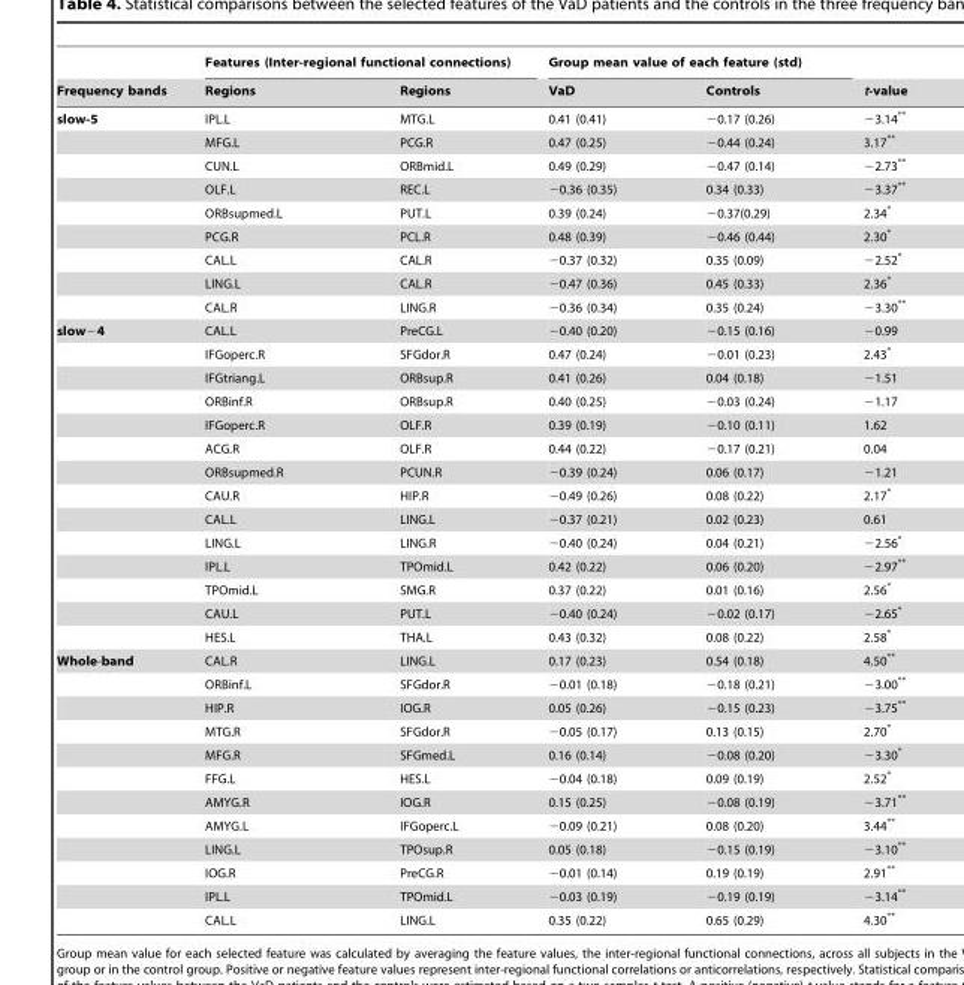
<table><thead><tr><td rowspan="2">Frequency bands</td><td colspan="2">Features (Inter-regional functional connections)</td><td colspan="2">Group mean value of each feature (std)</td><td rowspan="2">t-value</td></tr><tr><td>Regions</td><td>Regions</td><td>VaD</td><td>Controls</td></tr></thead><tbody><tr><td rowspan="9">slow-5</td><td>IPL.L</td><td>MTG.L</td><td>0.41 (0.41)</td><td>−0.17 (0.26)</td><td>−3.14**</td></tr><tr><td>MFG.L</td><td>PCG.R</td><td>0.47 (0.25)</td><td>−0.44 (0.24)</td><td>3.17**</td></tr><tr><td>CUN.L</td><td>ORBmid.L</td><td>0.49 (0.29)</td><td>−0.47 (0.14)</td><td>−2.73**</td></tr><tr><td>OLF.L</td><td>REC.L</td><td>−0.36 (0.35)</td><td>0.34 (0.33)</td><td>−3.37**</td></tr><tr><td>ORBsupmed.L</td><td>PUT.L</td><td>0.39 (0.24)</td><td>−0.37(0.29)</td><td>2.34*</td></tr><tr><td>PCG.R</td><td>PCL.R</td><td>0.48 (0.39)</td><td>−0.46 (0.44)</td><td>2.30*</td></tr><tr><td>CAL.L</td><td>CAL.R</td><td>−0.37 (0.32)</td><td>0.35 (0.09)</td><td>−2.52*</td></tr><tr><td>LING.L</td><td>CAL.R</td><td>−0.47 (0.36)</td><td>0.45 (0.33)</td><td>2.36*</td></tr><tr><td>CAL.R</td><td>LING.R</td><td>−0.36 (0.34)</td><td>0.35 (0.24)</td><td>−3.30**</td></tr><tr><td rowspan="14">slow−4</td><td>CAL.L</td><td>PreCG.L</td><td>−0.40 (0.20)</td><td>−0.15 (0.16)</td><td>−0.99</td></tr><tr><td>IFGoperc.R</td><td>SFGdor.R</td><td>0.47 (0.24)</td><td>−0.01 (0.23)</td><td>2.43*</td></tr><tr><td>IFGtriang.L</td><td>ORBsup.R</td><td>0.41 (0.26)</td><td>0.04 (0.18)</td><td>−1.51</td></tr><tr><td>ORBinf.R</td><td>ORBsup.R</td><td>0.40 (0.25)</td><td>−0.03 (0.24)</td><td>−1.17</td></tr><tr><td>IFGoperc.R</td><td>OLF.R</td><td>0.39 (0.19)</td><td>−0.10 (0.11)</td><td>1.62</td></tr><tr><td>ACG.R</td><td>OLF.R</td><td>0.44 (0.22)</td><td>−0.17 (0.21)</td><td>0.04</td></tr><tr><td>ORBsupmed.R</td><td>PCUN.R</td><td>−0.39 (0.24)</td><td>0.06 (0.17)</td><td>−1.21</td></tr><tr><td>CAU.R</td><td>HIP.R</td><td>−0.49 (0.26)</td><td>0.08 (0.22)</td><td>2.17*</td></tr><tr><td>CAL.L</td><td>LING.L</td><td>−0.37 (0.21)</td><td>0.02 (0.23)</td><td>0.61</td></tr><tr><td>LING.L</td><td>LING.R</td><td>−0.40 (0.24)</td><td>0.04 (0.21)</td><td>−2.56*</td></tr><tr><td>IPL.L</td><td>TPOmid.L</td><td>0.42 (0.22)</td><td>0.06 (0.20)</td><td>−2.97**</td></tr><tr><td>TPOmid.L</td><td>SMG.R</td><td>0.37 (0.22)</td><td>0.01 (0.16)</td><td>2.56*</td></tr><tr><td>CAU.L</td><td>PUT.L</td><td>−0.40 (0.24)</td><td>−0.02 (0.17)</td><td>−2.65*</td></tr><tr><td>HES.L</td><td>THA.L</td><td>0.43 (0.32)</td><td>0.08 (0.22)</td><td>2.58*</td></tr><tr><td rowspan="12">Whole-band</td><td>CAL.R</td><td>LING.L</td><td>0.17 (0.23)</td><td>0.54 (0.18)</td><td>4.50**</td></tr><tr><td>ORBinf.L</td><td>SFGdor.R</td><td>−0.01 (0.18)</td><td>−0.18 (0.21)</td><td>−3.00**</td></tr><tr><td>HIP.R</td><td>IOG.R</td><td>0.05 (0.26)</td><td>−0.15 (0.23)</td><td>−3.75**</td></tr><tr><td>MTG.R</td><td>SFGdor.R</td><td>−0.05 (0.17)</td><td>0.13 (0.15)</td><td>2.70*</td></tr><tr><td>MFG.R</td><td>SFGmed.L</td><td>0.16 (0.14)</td><td>−0.08 (0.20)</td><td>−3.30*</td></tr><tr><td>FFG.L</td><td>HES.L</td><td>−0.04 (0.18)</td><td>0.09 (0.19)</td><td>2.52*</td></tr><tr><td>AMYG.R</td><td>IOG.R</td><td>0.15 (0.25)</td><td>−0.08 (0.19)</td><td>−3.71**</td></tr><tr><td>AMYG.L</td><td>IFGoperc.L</td><td>−0.09 (0.21)</td><td>0.08 (0.20)</td><td>3.44**</td></tr><tr><td>LING.L</td><td>TPOsup.R</td><td>0.05 (0.18)</td><td>−0.15 (0.19)</td><td>−3.10**</td></tr><tr><td>IOG.R</td><td>PreCG.R</td><td>−0.01 (0.14)</td><td>0.19 (0.19)</td><td>2.91**</td></tr><tr><td>IPL.L</td><td>TPOmid.L</td><td>−0.03 (0.19)</td><td>−0.19 (0.19)</td><td>−3.14**</td></tr><tr><td>CAL.L</td><td>LING.L</td><td>0.35 (0.22)</td><td>0.65 (0.29)</td><td>4.30**</td></tr></tbody></table>